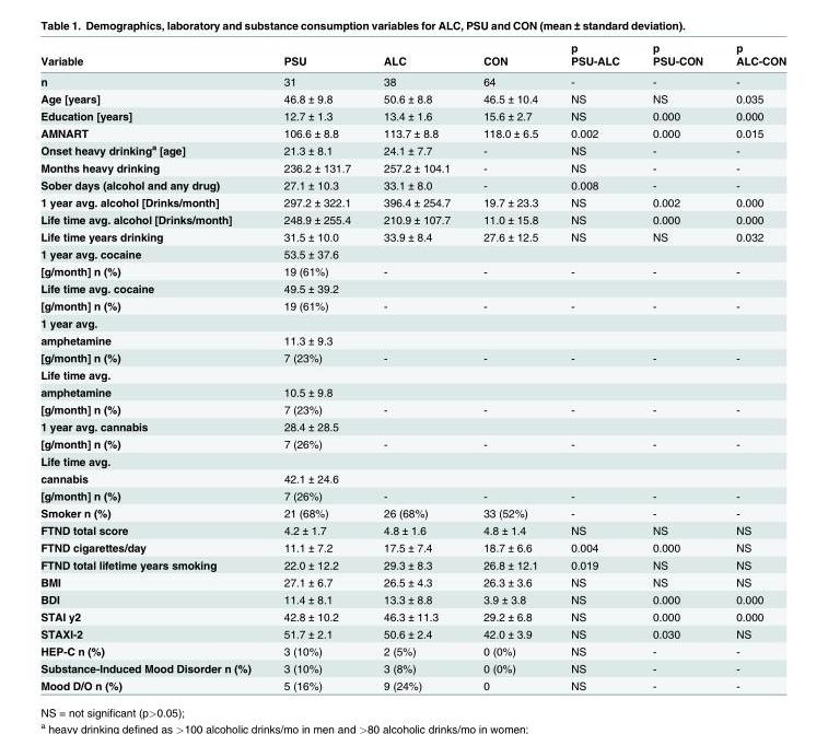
<table><thead><tr><td rowspan="2">Variable</td><td rowspan="2">PSU</td><td rowspan="2">ALC</td><td rowspan="2">CON</td><td rowspan="2">p PSU-ALC</td><td rowspan="2">p PSU-CON</td><td rowspan="2">p ALC-CON</td></tr><tr></tr></thead><tbody><tr><td>n</td><td>31</td><td>38</td><td>64</td><td>-</td><td>-</td><td>-</td></tr><tr><td>Age [years]</td><td>46.8 ± 9.8</td><td>50.6 ± 8.8</td><td>46.5 ± 10.4</td><td>NS</td><td>NS</td><td>0.035</td></tr><tr><td>Education [years]</td><td>12.7 ± 1.3</td><td>13.4 ± 1.6</td><td>15.6 ± 2.7</td><td>NS</td><td>0.000</td><td>0.000</td></tr><tr><td>AMNART</td><td>106.6 ± 8.8</td><td>113.7 ± 8.8</td><td>118.0 ± 6.5</td><td>0.002</td><td>0.000</td><td>0.015</td></tr><tr><td>Onset heavy drinking<sup>a</sup> [age]</td><td>21.3 ± 8.1</td><td>24.1 ± 7.7</td><td>-</td><td>NS</td><td>-</td><td>-</td></tr><tr><td>Months heavy drinking</td><td>236.2 ± 131.7</td><td>257.2 ± 104.1</td><td>-</td><td>NS</td><td>-</td><td>-</td></tr><tr><td>Sober days (alcohol and any drug)</td><td>27.1 ± 10.3</td><td>33.1 ± 8.0</td><td>-</td><td>0.008</td><td>-</td><td>-</td></tr><tr><td>1 year avg. alcohol [Drinks/month]</td><td>297.2 ± 322.1</td><td>396.4 ± 254.7</td><td>19.7 ± 23.3</td><td>NS</td><td>0.002</td><td>0.000</td></tr><tr><td>Life time avg. alcohol [Drinks/month]</td><td>248.9 ± 255.4</td><td>210.9 ± 107.7</td><td>11.0 ± 15.8</td><td>NS</td><td>0.000</td><td>0.000</td></tr><tr><td>Life time years drinking</td><td>31.5 ± 10.0</td><td>33.9 ± 8.4</td><td>27.6 ± 12.5</td><td>NS</td><td>NS</td><td>0.032</td></tr><tr><td>1 year avg. cocaine</td><td>53.5 ± 37.6</td><td></td><td></td><td></td><td></td><td></td></tr><tr><td>[g/month] n (%)</td><td>19 (61%)</td><td>-</td><td>-</td><td>-</td><td>-</td><td>-</td></tr><tr><td>Life time avg. cocaine</td><td>49.5 ± 39.2</td><td></td><td></td><td></td><td></td><td></td></tr><tr><td>[g/month] n (%)</td><td>19 (61%)</td><td>-</td><td>-</td><td>-</td><td>-</td><td>-</td></tr><tr><td colspan="7">1 year avg.</td></tr><tr><td>amphetamine</td><td>11.3 ± 9.3</td><td></td><td></td><td></td><td></td><td></td></tr><tr><td>[g/month] n (%)</td><td>7 (23%)</td><td>-</td><td>-</td><td>-</td><td>-</td><td>-</td></tr><tr><td colspan="7">Life time avg.</td></tr><tr><td>amphetamine</td><td>10.5 ± 9.8</td><td></td><td></td><td></td><td></td><td></td></tr><tr><td>[g/month] n (%)</td><td>7 (23%)</td><td>-</td><td>-</td><td>-</td><td>-</td><td>-</td></tr><tr><td>1 year avg. cannabis</td><td>28.4 ± 28.5</td><td></td><td></td><td></td><td></td><td></td></tr><tr><td>[g/month] n (%)</td><td>7 (26%)</td><td>-</td><td>-</td><td>-</td><td>-</td><td>-</td></tr><tr><td colspan="7">Life time avg.</td></tr><tr><td>cannabis</td><td>42.1 ± 24.6</td><td></td><td></td><td></td><td></td><td></td></tr><tr><td>[g/month] n (%)</td><td>7 (26%)</td><td>-</td><td>-</td><td>-</td><td>-</td><td>-</td></tr><tr><td>Smoker n (%)</td><td>21 (68%)</td><td>26 (68%)</td><td>33 (52%)</td><td>-</td><td>-</td><td>-</td></tr><tr><td>FTND total score</td><td>4.2 ± 1.7</td><td>4.8 ± 1.6</td><td>4.8 ± 1.4</td><td>NS</td><td>NS</td><td>NS</td></tr><tr><td>FTND cigarettes/day</td><td>11.1 ± 7.2</td><td>17.5 ± 7.4</td><td>18.7 ± 6.6</td><td>0.004</td><td>0.000</td><td>NS</td></tr><tr><td>FTND total lifetime years smoking</td><td>22.0 ± 12.2</td><td>29.3 ± 8.3</td><td>26.8 ± 12.1</td><td>0.019</td><td>NS</td><td>NS</td></tr><tr><td>BMI</td><td>27.1 ± 6.7</td><td>26.5 ± 4.3</td><td>26.3 ± 3.6</td><td>NS</td><td>NS</td><td>NS</td></tr><tr><td>BDI</td><td>11.4 ± 8.1</td><td>13.3 ± 8.8</td><td>3.9 ± 3.8</td><td>NS</td><td>0.000</td><td>0.000</td></tr><tr><td>STAI y2</td><td>42.8 ± 10.2</td><td>46.3 ± 11.3</td><td>29.2 ± 6.8</td><td>NS</td><td>0.000</td><td>0.000</td></tr><tr><td>STAXI-2</td><td>51.7 ± 2.1</td><td>50.6 ± 2.4</td><td>42.0 ± 3.9</td><td>NS</td><td>0.030</td><td>NS</td></tr><tr><td>HEP-C n (%)</td><td>3 (10%)</td><td>2 (5%)</td><td>0 (0%)</td><td>NS</td><td>-</td><td>-</td></tr><tr><td>Substance-Induced Mood Disorder n (%)</td><td>3 (10%)</td><td>3 (8%)</td><td>0 (0%)</td><td>NS</td><td>-</td><td>-</td></tr><tr><td>Mood D/O n (%)</td><td>5 (16%)</td><td>9 (24%)</td><td>0</td><td>NS</td><td>-</td><td>-</td></tr></tbody></table>